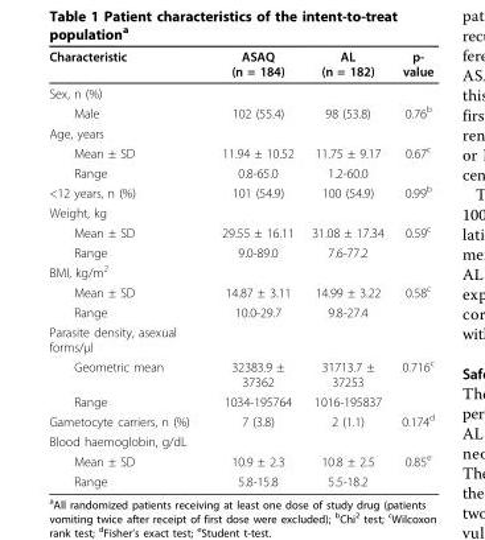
<table><thead><tr><td>Characteristic</td><td>ASAQ (n = 184)</td><td>AL (n = 182)</td><td>p- value</td></tr></thead><tbody><tr><td colspan="4">Sex, n (%)</td></tr><tr><td>Male</td><td>102 (55.4)</td><td>98 (53.8)</td><td>0.76<sup>b</sup></td></tr><tr><td colspan="4">Age, years</td></tr><tr><td>Mean ± SD</td><td>11.94 ± 10.52</td><td>11.75 ± 9.17</td><td>0.67<sup>c</sup></td></tr><tr><td>Range</td><td>0.8-65.0</td><td>1.2-60.0</td><td></td></tr><tr><td>&lt;12 years, n (%)</td><td>101 (54.9)</td><td>100 (54.9)</td><td>0.99<sup>b</sup></td></tr><tr><td colspan="4">Weight, kg</td></tr><tr><td>Mean ± SD</td><td>29.55 ± 16.11</td><td>31.08 ± 17.34</td><td>0.59<sup>c</sup></td></tr><tr><td>Range</td><td>9.0-89.0</td><td>7.6-77.2</td><td></td></tr><tr><td colspan="4">BMI, kg/m<sup>2</sup></td></tr><tr><td>Mean ± SD</td><td>14.87 ± 3.11</td><td>14.99 ± 3.22</td><td>0.58<sup>c</sup></td></tr><tr><td>Range</td><td>10.0-29.7</td><td>9.8-27.4</td><td></td></tr><tr><td colspan="4">Parasite density, asexual forms/μl</td></tr><tr><td>Geometric mean</td><td>32383.9 ± 37362</td><td>31713.7 ± 37253</td><td>0.716<sup>c</sup></td></tr><tr><td>Range</td><td>1034-195764</td><td>1016-195837</td><td></td></tr><tr><td>Gametocyte carriers, n (%)</td><td>7 (3.8)</td><td>2 (1.1)</td><td>0.174<sup>d</sup></td></tr><tr><td colspan="4">Blood haemoglobin, g/dL</td></tr><tr><td>Mean ± SD</td><td>10.9 ± 2.3</td><td>10.8 ± 2.5</td><td>0.85<sup>e</sup></td></tr><tr><td>Range</td><td>5.8-15.8</td><td>5.5-18.2</td><td></td></tr></tbody></table>